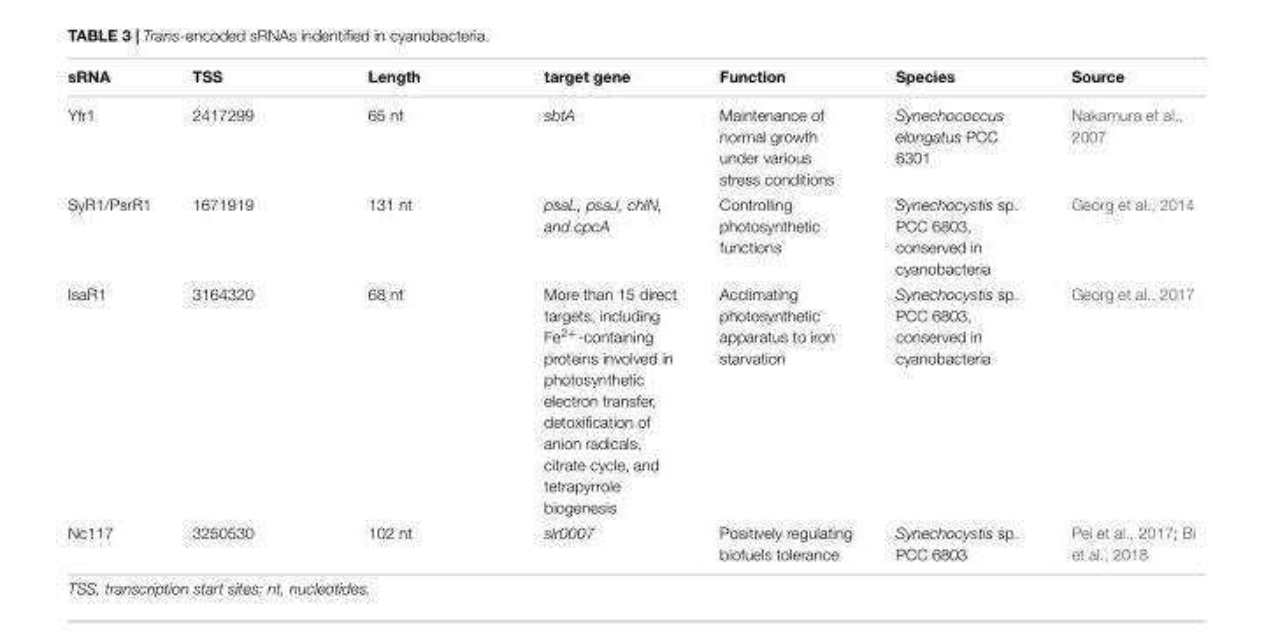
<table><thead><tr><td>sRNA</td><td>TSS</td><td>Length</td><td>target gene</td><td>Function</td><td>Species</td><td>Source</td></tr></thead><tbody><tr><td>Yfr1</td><td>2417299</td><td>65 nt</td><td>sbtA</td><td>Maintenance of normal growth under various stress conditions</td><td>Synechococcus elongatus PCC 6301</td><td>Nakamura et al., 2007</td></tr><tr><td>SyR1/PsrR1</td><td>1671919</td><td>131 nt</td><td>psaL, psaJ, chlN, and cpcA</td><td>Controlling photosynthetic functions</td><td>Synechocystis sp. PCC 6803, conserved in cyanobacteria</td><td>Georg et al., 2014</td></tr><tr><td>IsaR1</td><td>3164320</td><td>68 nt</td><td>More than 15 direct targets, including Fe<sup>2+</sup>-containing proteins involved in photosynthetic electron transfer, detoxification of anion radicals, citrate cycle, and tetrapyrrole biogenesis</td><td>Acclimating photosynthetic apparatus to iron starvation</td><td>Synechocystis sp. PCC 6803, conserved in cyanobacteria</td><td>Georg et al., 2017</td></tr><tr><td>Nc117</td><td>3250530</td><td>102 nt</td><td>slr0007</td><td>Positively regulating biofuels tolerance</td><td>Synechocystis sp. PCC 6803</td><td>Pei et al., 2017; Bi et al., 2018</td></tr></tbody></table>